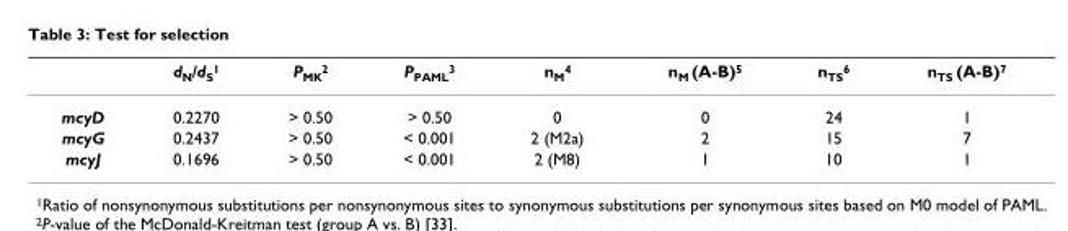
<table><thead><tr><td></td><td>d<sub>N</sub>/d<sub>S</sub><sup>1</sup></td><td>P<sub>MK</sub><sup>2</sup></td><td>P<sub>PAML</sub><sup>3</sup></td><td>n<sub>M</sub><sup>4</sup></td><td>n<sub>M</sub> (A-B)<sup>5</sup></td><td>n<sub>TS</sub><sup>6</sup></td><td>n<sub>TS</sub> (A-B)<sup>7</sup></td></tr></thead><tbody><tr><td>mcyD</td><td>0.2270</td><td>&gt; 0.50</td><td>&gt; 0.50</td><td>0</td><td>0</td><td>24</td><td>1</td></tr><tr><td>mcyG</td><td>0.2437</td><td>&gt; 0.50</td><td>&lt; 0.001</td><td>2 (M2a)</td><td>2</td><td>15</td><td>7</td></tr><tr><td>mcyJ</td><td>0.1696</td><td>&gt; 0.50</td><td>&lt; 0.001</td><td>2 (M8)</td><td>1</td><td>10</td><td>1</td></tr></tbody></table>